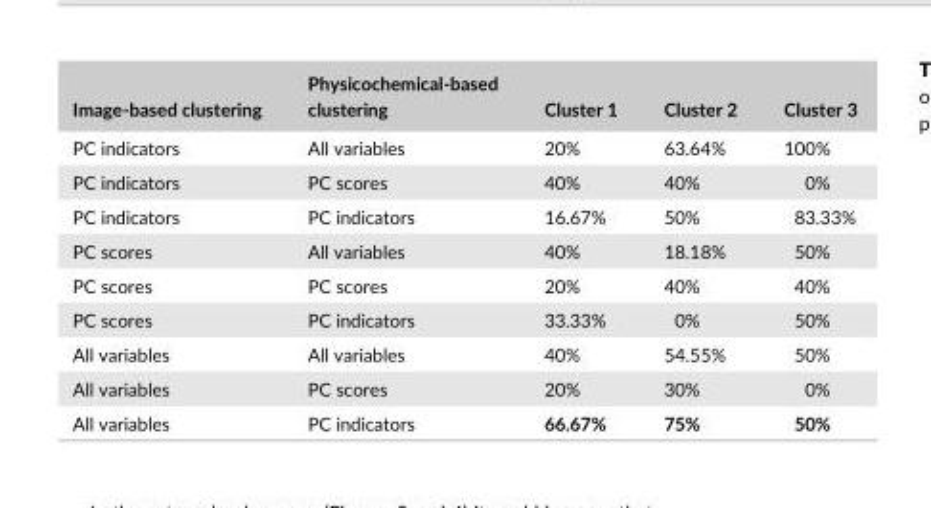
<table><thead><tr><td>Image- based clustering</td><td>Physicochemical- based clustering</td><td>Cluster 1</td><td>Cluster 2</td><td>Cluster 3</td></tr></thead><tbody><tr><td>PC indicators</td><td>All variables</td><td>20%</td><td>63.64%</td><td>100%</td></tr><tr><td>PC indicators</td><td>PC scores</td><td>40%</td><td>40%</td><td>0%</td></tr><tr><td>PC indicators</td><td>PC indicators</td><td>16.67%</td><td>50%</td><td>83.33%</td></tr><tr><td>PC scores</td><td>All variables</td><td>40%</td><td>18.18%</td><td>50%</td></tr><tr><td>PC scores</td><td>PC scores</td><td>20%</td><td>40%</td><td>40%</td></tr><tr><td>PC scores</td><td>PC indicators</td><td>33.33%</td><td>0%</td><td>50%</td></tr><tr><td>All variables</td><td>All variables</td><td>40%</td><td>54.55%</td><td>50%</td></tr><tr><td>All variables</td><td>PC scores</td><td>20%</td><td>30%</td><td>0%</td></tr><tr><td>All variables</td><td>PC indicators</td><td>66.67%</td><td>75%</td><td>50%</td></tr></tbody></table>